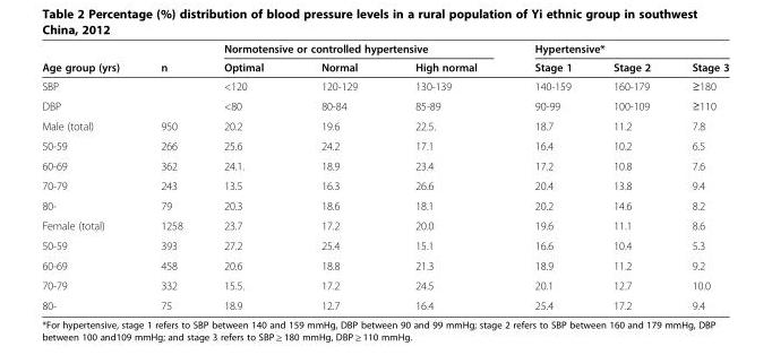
<table><thead><tr><td rowspan="2">Age group (yrs)</td><td rowspan="2">n</td><td colspan="3">Normotensive or controlled hypertensive</td><td colspan="3">Hypertensive*</td></tr><tr><td>Optimal</td><td>Normal</td><td>High normal</td><td>Stage 1</td><td>Stage 2</td><td>Stage 3</td></tr></thead><tbody><tr><td>SBP</td><td></td><td>&lt;120</td><td>120-129</td><td>130-139</td><td>140-159</td><td>160-179</td><td>≥180</td></tr><tr><td>DBP</td><td></td><td>&lt;80</td><td>80-84</td><td>85-89</td><td>90-99</td><td>100-109</td><td>≥110</td></tr><tr><td>Male (total)</td><td>950</td><td>20.2</td><td>19.6</td><td>22.5.</td><td>18.7</td><td>11.2</td><td>7.8</td></tr><tr><td>50-59</td><td>266</td><td>25.6</td><td>24.2</td><td>17.1</td><td>16.4</td><td>10.2</td><td>6.5</td></tr><tr><td>60-69</td><td>362</td><td>24.1.</td><td>18.9</td><td>23.4</td><td>17.2</td><td>10.8</td><td>7.6</td></tr><tr><td>70-79</td><td>243</td><td>13.5</td><td>16.3</td><td>26.6</td><td>20.4</td><td>13.8</td><td>9.4</td></tr><tr><td>80-</td><td>79</td><td>20.3</td><td>18.6</td><td>18.1</td><td>20.2</td><td>14.6</td><td>8.2</td></tr><tr><td>Female (total)</td><td>1258</td><td>23.7</td><td>17.2</td><td>20.0</td><td>19.6</td><td>11.1</td><td>8.6</td></tr><tr><td>50-59</td><td>393</td><td>27.2</td><td>25.4</td><td>15.1</td><td>16.6</td><td>10.4</td><td>5.3</td></tr><tr><td>60-69</td><td>458</td><td>20.6</td><td>18.8</td><td>21.3</td><td>18.9</td><td>11.2</td><td>9.2</td></tr><tr><td>70-79</td><td>332</td><td>15.5.</td><td>17.2</td><td>24.5</td><td>20.1</td><td>12.7</td><td>10.0</td></tr><tr><td>80-</td><td>75</td><td>18.9</td><td>12.7</td><td>16.4</td><td>25.4</td><td>17.2</td><td>9.4</td></tr></tbody></table>